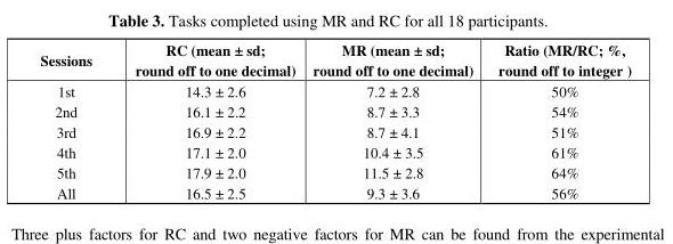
<table><thead><tr><td>Sessions</td><td>RC (mean ± sd; round off to one decimal)</td><td>MR (mean ± sd; round off to one decimal)</td><td>Ratio (MR/RC; %, round off to integer )</td></tr></thead><tbody><tr><td>1st</td><td>14.3 ± 2.6</td><td>7.2 ± 2.8</td><td>50%</td></tr><tr><td>2nd</td><td>16.1 ± 2.2</td><td>8.7 ± 3.3</td><td>54%</td></tr><tr><td>3rd</td><td>16.9 ± 2.2</td><td>8.7 ± 4.1</td><td>51%</td></tr><tr><td>4th</td><td>17.1 ± 2.0</td><td>10.4 ± 3.5</td><td>61%</td></tr><tr><td>5th</td><td>17.9 ± 2.0</td><td>11.5 ± 2.8</td><td>64%</td></tr><tr><td>All</td><td>16.5 ± 2.5</td><td>9.3 ± 3.6</td><td>56%</td></tr></tbody></table>